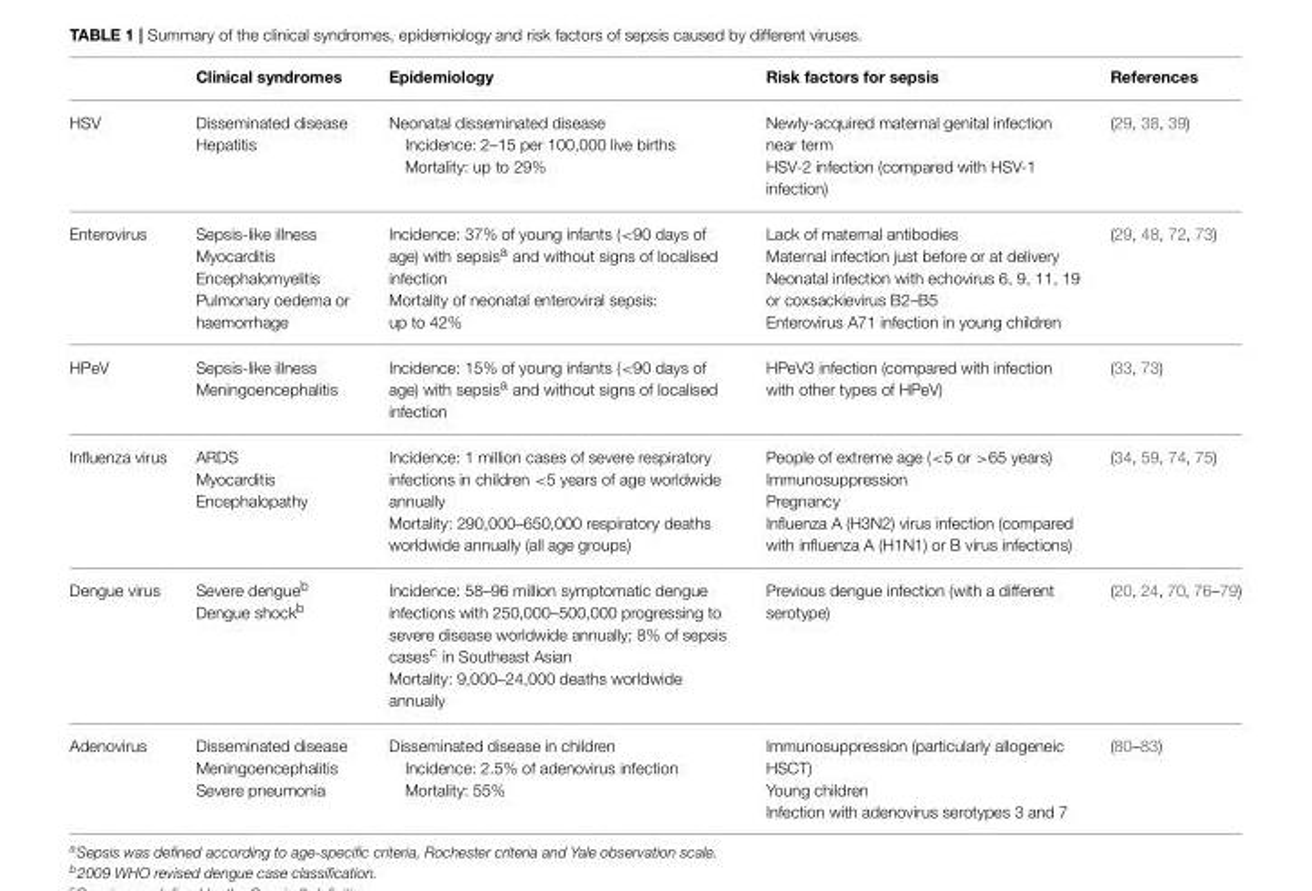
<table><thead><tr><td></td><td>Clinical syndromes</td><td>Epidemiology</td><td>Risk factors for sepsis</td><td>References</td></tr></thead><tbody><tr><td>HSV</td><td>Disseminated disease Hepatitis</td><td>Neonatal disseminated disease Incidence: 2–15 per 100,000 live births Mortality: up to 29%</td><td>Newly-acquired maternal genital infection near term HSV-2 infection (compared with HSV-1 infection)</td><td>(29, 38, 39)</td></tr><tr><td>Enterovirus</td><td>Sepsis-like illness Myocarditis Encephalomyelitis Pulmonary oedema or haemorrhage</td><td>Incidence: 37% of young infants (&lt;90 days of age) with sepsis<sup>a</sup> and without signs of localised infection Mortality of neonatal enteroviral sepsis: up to 42%</td><td>Lack of maternal antibodies Maternal infection just before or at delivery Neonatal infection with echovirus 6, 9, 11, 19 or coxsackievirus B2–B5 Enterovirus A71 infection in young children</td><td>(29, 48, 72, 73)</td></tr><tr><td>HPeV</td><td>Sepsis-like illness Meningoencephalitis</td><td>Incidence: 15% of young infants (&lt;90 days of age) with sepsis<sup>a</sup> and without signs of localised infection</td><td>HPeV3 infection (compared with infection with other types of HPeV)</td><td>(33, 73)</td></tr><tr><td>Influenza virus</td><td>ARDS Myocarditis Encephalopathy</td><td>Incidence: 1 million cases of severe respiratory infections in children &lt;5 years of age worldwide annually Mortality: 290,000–650,000 respiratory deaths worldwide annually (all age groups)</td><td>People of extreme age (&lt;5 or &gt;65 years) Immunosuppression Pregnancy Influenza A (H3N2) virus infection (compared with influenza A (H1N1) or B virus infections)</td><td>(34, 59, 74, 75)</td></tr><tr><td>Dengue virus</td><td>Severe dengue<sup>b</sup> Dengue shock<sup>b</sup></td><td>Incidence: 58–96 million symptomatic dengue infections with 250,000–500,000 progressing to severe disease worldwide annually; 8% of sepsis cases<sup>c</sup> in Southeast Asian Mortality: 9,000–24,000 deaths worldwide annually</td><td>Previous dengue infection (with a different serotype)</td><td>(20, 24, 70, 76–79)</td></tr><tr><td>Adenovirus</td><td>Disseminated disease Meningoencephalitis Severe pneumonia</td><td>Disseminated disease in children Incidence: 2.5% of adenovirus infection Mortality: 55%</td><td>Immunosuppression (particularly allogeneic HSCT) Young children Infection with adenovirus serotypes 3 and 7</td><td>(80–83)</td></tr></tbody></table>